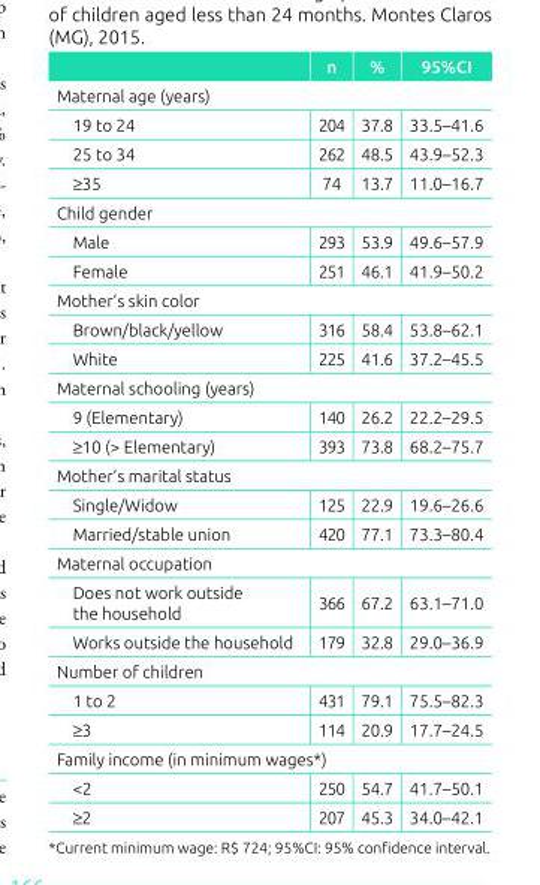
<table><thead><tr><td></td><td>n</td><td>%</td><td>95%CI</td></tr></thead><tbody><tr><td colspan="4">Maternal age (years)</td></tr><tr><td>19 to 24</td><td>204</td><td>37.8</td><td>33.5–41.6</td></tr><tr><td>25 to 34</td><td>262</td><td>48.5</td><td>43.9–52.3</td></tr><tr><td>≥35</td><td>74</td><td>13.7</td><td>11.0–16.7</td></tr><tr><td colspan="4">Child gender</td></tr><tr><td>Male</td><td>293</td><td>53.9</td><td>49.6–57.9</td></tr><tr><td>Female</td><td>251</td><td>46.1</td><td>41.9–50.2</td></tr><tr><td colspan="4">Mother’s skin color</td></tr><tr><td>Brown/black/yellow</td><td>316</td><td>58.4</td><td>53.8–62.1</td></tr><tr><td>White</td><td>225</td><td>41.6</td><td>37.2–45.5</td></tr><tr><td colspan="4">Maternal schooling (years)</td></tr><tr><td>9 (Elementary)</td><td>140</td><td>26.2</td><td>22.2–29.5</td></tr><tr><td>≥10 (&gt; Elementary)</td><td>393</td><td>73.8</td><td>68.2–75.7</td></tr><tr><td colspan="4">Mother’s marital status</td></tr><tr><td>Single/Widow</td><td>125</td><td>22.9</td><td>19.6–26.6</td></tr><tr><td>Married/stable union</td><td>420</td><td>77.1</td><td>73.3–80.4</td></tr><tr><td colspan="4">Maternal occupation</td></tr><tr><td>Does not work outside the household</td><td>366</td><td>67.2</td><td>63.1–71.0</td></tr><tr><td>Works outside the household</td><td>179</td><td>32.8</td><td>29.0–36.9</td></tr><tr><td colspan="4">Number of children</td></tr><tr><td>1 to 2</td><td>431</td><td>79.1</td><td>75.5–82.3</td></tr><tr><td>≥3</td><td>114</td><td>20.9</td><td>17.7–24.5</td></tr><tr><td colspan="4">Family income (in minimum wages*)</td></tr><tr><td>&lt;2</td><td>250</td><td>54.7</td><td>41.7–50.1</td></tr><tr><td>≥2</td><td>207</td><td>45.3</td><td>34.0–42.1</td></tr></tbody></table>